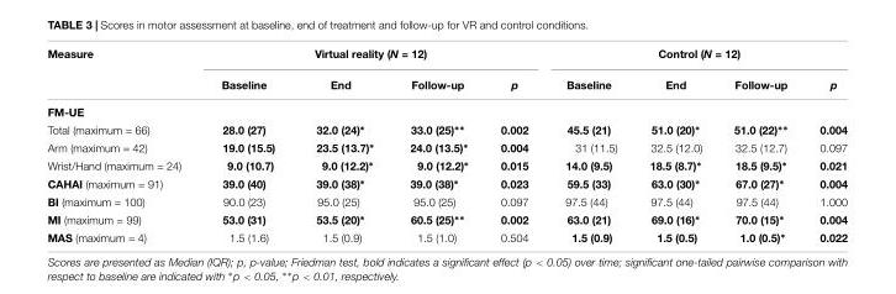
<table><thead><tr><td rowspan="2">Measure</td><td colspan="4">Virtual reality (N = 12)</td><td colspan="4">Control (N = 12)</td></tr><tr><td>Baseline</td><td>End</td><td>Follow-up</td><td>p</td><td>Baseline</td><td>End</td><td>Follow-up</td><td>p</td></tr></thead><tbody><tr><td colspan="9">FM-UE</td></tr><tr><td>Total (maximum = 66)</td><td>28.0 (27)</td><td>32.0 (24)∗</td><td>33.0 (25)∗∗</td><td>0.002</td><td>45.5 (21)</td><td>51.0 (20)∗</td><td>51.0 (22)∗∗</td><td>0.004</td></tr><tr><td>Arm (maximum = 42)</td><td>19.0 (15.5)</td><td>23.5 (13.7)∗</td><td>24.0 (13.5)∗</td><td>0.004</td><td>31 (11.5)</td><td>32.5 (12.0)</td><td>32.5 (12.7)</td><td>0.097</td></tr><tr><td>Wrist/Hand (maximum = 24)</td><td>9.0 (10.7)</td><td>9.0 (12.2)∗</td><td>9.0 (12.2)∗</td><td>0.015</td><td>14.0 (9.5)</td><td>18.5 (8.7)∗</td><td>18.5 (9.5)∗</td><td>0.021</td></tr><tr><td>CAHAI (maximum = 91)</td><td>39.0 (40)</td><td>39.0 (38)∗</td><td>39.0 (38)∗</td><td>0.023</td><td>59.5 (33)</td><td>63.0 (30)∗</td><td>67.0 (27)∗</td><td>0.004</td></tr><tr><td>BI (maximum = 100)</td><td>90.0 (23)</td><td>95.0 (25)</td><td>95.0 (25)</td><td>0.097</td><td>97.5 (44)</td><td>97.5 (44)</td><td>97.5 (44)</td><td>1.000</td></tr><tr><td>MI (maximum = 99)</td><td>53.0 (31)</td><td>53.5 (20)∗</td><td>60.5 (25)∗∗</td><td>0.002</td><td>63.0 (21)</td><td>69.0 (16)∗</td><td>70.0 (15)∗</td><td>0.004</td></tr><tr><td>MAS (maximum = 4)</td><td>1.5 (1.6)</td><td>1.5 (0.9)</td><td>1.5 (1.0)</td><td>0.504</td><td>1.5 (0.9)</td><td>1.5 (0.5)</td><td>1.0 (0.5)∗</td><td>0.022</td></tr></tbody></table>